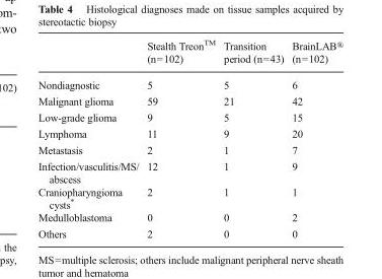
<table><thead><tr><td></td><td>Stealth Treon<sup>TM</sup> (n=102)</td><td>Transition period (n=43)</td><td>BrainLAB® (n=102)</td></tr></thead><tbody><tr><td>Nondiagnostic</td><td>5</td><td>5</td><td>6</td></tr><tr><td>Malignant glioma</td><td>59</td><td>21</td><td>42</td></tr><tr><td>Low-grade glioma</td><td>9</td><td>5</td><td>15</td></tr><tr><td>Lymphoma</td><td>11</td><td>9</td><td>20</td></tr><tr><td>Metastasis</td><td>2</td><td>1</td><td>7</td></tr><tr><td>Infection/vasculitis/MS/ abscess</td><td>12</td><td>1</td><td>9</td></tr><tr><td>Craniopharyngioma cysts*</td><td>2</td><td>1</td><td>1</td></tr><tr><td>Medulloblastoma</td><td>0</td><td>0</td><td>2</td></tr><tr><td>Others</td><td>2</td><td>0</td><td>0</td></tr></tbody></table>